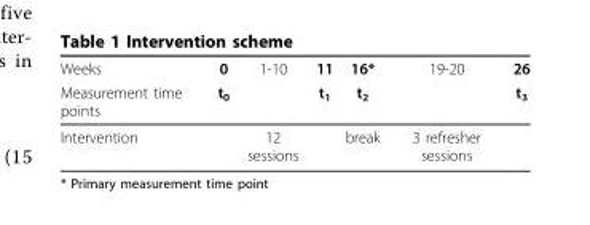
<table><thead><tr><td rowspan="2">Weeks Measurement time points</td><td rowspan="2">0 t<sub>0</sub></td><td rowspan="2">1-10</td><td rowspan="2">11 t<sub>1</sub></td><td rowspan="2">16* t<sub>2</sub></td><td rowspan="2">19-20</td><td rowspan="2">26 t<sub>3</sub></td></tr><tr></tr></thead><tbody><tr><td>Intervention</td><td></td><td>12 sessions</td><td></td><td>break</td><td>3 refresher sessions</td><td></td></tr></tbody></table>